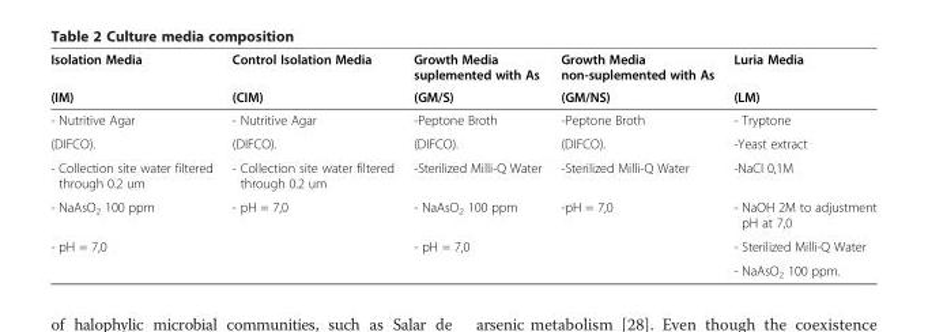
<table><thead><tr><td rowspan="2">Isolation Media (IM)</td><td rowspan="2">Control Isolation Media (CIM)</td><td rowspan="2">Growth Media suplemented with As (GM/S)</td><td rowspan="2">Growth Media non-suplemented with As (GM/NS)</td><td rowspan="2">Luria Media (LM)</td></tr><tr></tr></thead><tbody><tr><td>- Nutritive Agar</td><td>- Nutritive Agar</td><td>-Peptone Broth</td><td>-Peptone Broth</td><td>- Tryptone</td></tr><tr><td>(DIFCO).</td><td>(DIFCO).</td><td>(DIFCO).</td><td>(DIFCO).</td><td>-Yeast extract</td></tr><tr><td>- Collection site water filtered through 0.2 um</td><td>- Collection site water filtered through 0.2 um</td><td>-Sterilized Milli-Q Water</td><td>-Sterilized Milli-Q Water</td><td>-NaCl 0,1M</td></tr><tr><td>- NaAsO<sub>2</sub> 100 ppm</td><td>- pH = 7,0</td><td>- NaAsO<sub>2</sub> 100 ppm</td><td>-pH = 7,0</td><td>- NaOH 2M to adjustment pH at 7,0</td></tr><tr><td rowspan="2">- pH = 7,0</td><td></td><td>- pH = 7,0</td><td></td><td>- Sterilized Milli-Q Water</td></tr><tr><td></td><td></td><td></td><td>- NaAsO<sub>2</sub> 100 ppm.</td></tr></tbody></table>